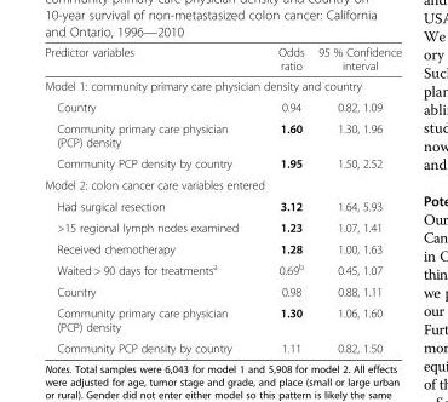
<table><thead><tr><td>Predictor variables</td><td>Odds ratio</td><td>95 % Confidence interval</td></tr></thead><tbody><tr><td colspan="3">Model 1: community primary care physician density and country</td></tr><tr><td>Country</td><td>0.94</td><td>0.82, 1.09</td></tr><tr><td>Community primary care physician (PCP) density</td><td>1.60</td><td>1.30, 1.96</td></tr><tr><td>Community PCP density by country</td><td>1.95</td><td>1.50, 2.52</td></tr><tr><td colspan="3">Model 2: colon cancer care variables entered</td></tr><tr><td>Had surgical resection</td><td>3.12</td><td>1.64, 5.93</td></tr><tr><td>&gt;15 regional lymph nodes examined</td><td>1.23</td><td>1.07, 1.41</td></tr><tr><td>Received chemotherapy</td><td>1.28</td><td>1.00, 1.63</td></tr><tr><td>Waited &gt; 90 days for treatments<sup>a</sup></td><td>0.69<sup>b</sup></td><td>0.45, 1.07</td></tr><tr><td>Country</td><td>0.98</td><td>0.88, 1.11</td></tr><tr><td>Community primary care physician (PCP) density</td><td>1.30</td><td>1.06, 1.60</td></tr><tr><td>Community PCP density by country</td><td>1.11</td><td>0.82, 1.50</td></tr></tbody></table>